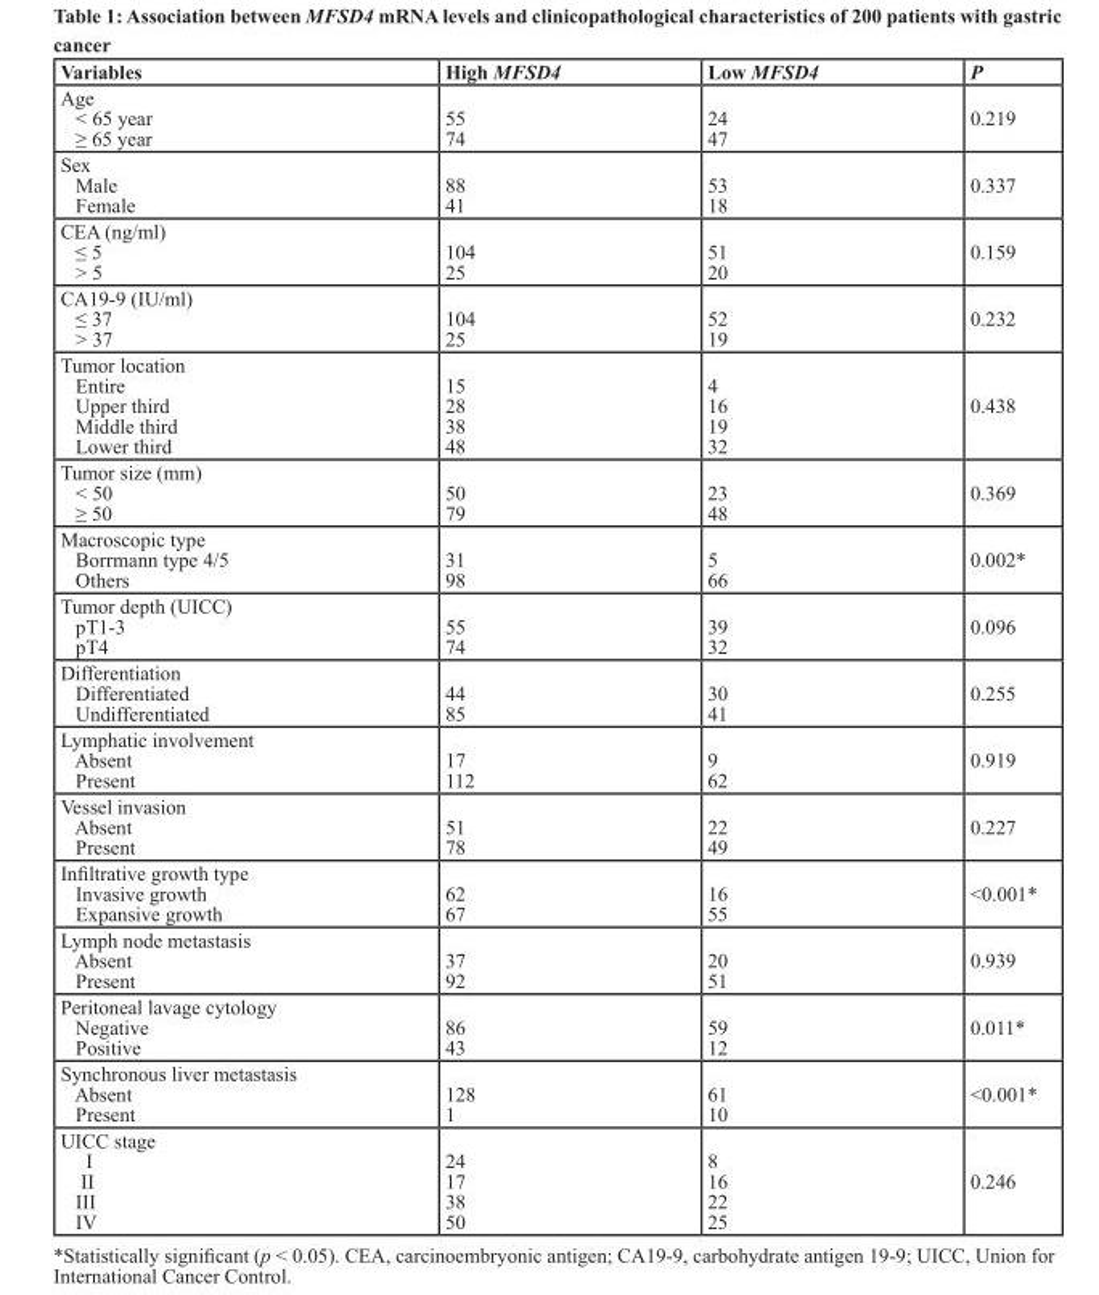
<table><thead><tr><td>Variables</td><td>High MFSD4</td><td>Low MFSD4</td><td>P</td></tr></thead><tbody><tr><td>Age &lt; 65 year ≥ 65 year</td><td>55 74</td><td>24 47</td><td>0.219</td></tr><tr><td>Sex Male Female</td><td>88 41</td><td>53 18</td><td>0.337</td></tr><tr><td>CEA (ng/ml) ≤ 5 &gt; 5</td><td>104 25</td><td>51 20</td><td>0.159</td></tr><tr><td>CA19-9 (IU/ml) ≤ 37 &gt; 37</td><td>104 25</td><td>52 19</td><td>0.232</td></tr><tr><td>Tumor location Entire Upper third Middle third Lower third</td><td>15 28 38 48</td><td>4 16 19 32</td><td>0.438</td></tr><tr><td>Tumor size (mm) &lt; 50 ≥ 50</td><td>50 79</td><td>23 48</td><td>0.369</td></tr><tr><td>Macroscopic type Borrmann type 4/5 Others</td><td>31 98</td><td>5 66</td><td>0.002*</td></tr><tr><td>Tumor depth (UICC) pT1-3 pT4</td><td>55 74</td><td>39 32</td><td>0.096</td></tr><tr><td>Differentiation Differentiated Undifferentiated</td><td>44 85</td><td>30 41</td><td>0.255</td></tr><tr><td>Lymphatic involvement Absent Present</td><td>17 112</td><td>9 62</td><td>0.919</td></tr><tr><td>Vessel invasion Absent Present</td><td>51 78</td><td>22 49</td><td>0.227</td></tr><tr><td>Infiltrative growth type Invasive growth Expansive growth</td><td>62 67</td><td>16 55</td><td>&lt;0.001*</td></tr><tr><td>Lymph node metastasis Absent Present</td><td>37 92</td><td>20 51</td><td>0.939</td></tr><tr><td>Peritoneal lavage cytology Negative Positive</td><td>86 43</td><td>59 12</td><td>0.011*</td></tr><tr><td>Synchronous liver metastasis Absent Present</td><td>128 1</td><td>61 10</td><td>&lt;0.001*</td></tr><tr><td>UICC stage I II III IV</td><td>24 17 38 50</td><td>8 16 22 25</td><td>0.246</td></tr></tbody></table>